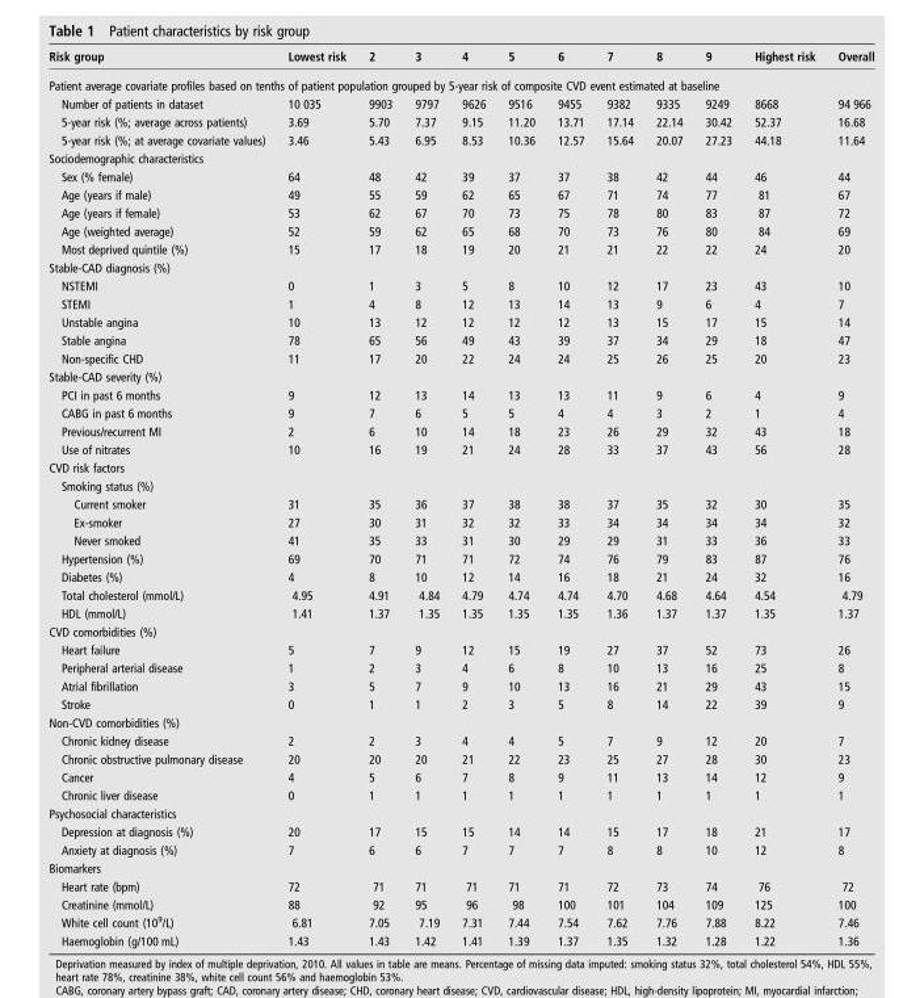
<table><thead><tr><td>Risk group</td><td>Lowest risk</td><td>2</td><td>3</td><td>4</td><td>5</td><td>6</td><td>7</td><td>8</td><td>9</td><td>Highest risk</td><td>Overall</td></tr></thead><tbody><tr><td colspan="12">Patient average covariate profiles based on tenths of patient population grouped by 5-year risk of composite CVD event estimated at baseline</td></tr><tr><td>Number of patients in dataset</td><td>10 035</td><td>9903</td><td>9797</td><td>9626</td><td>9516</td><td>9455</td><td>9382</td><td>9335</td><td>9249</td><td>8668</td><td>94 966</td></tr><tr><td>5-year risk (%; average across patients)</td><td>3.69</td><td>5.70</td><td>7.37</td><td>9.15</td><td>11.20</td><td>13.71</td><td>17.14</td><td>22.14</td><td>30.42</td><td>52.37</td><td>16.68</td></tr><tr><td>5-year risk (%; at average covariate values)</td><td>3.46</td><td>5.43</td><td>6.95</td><td>8.53</td><td>10.36</td><td>12.57</td><td>15.64</td><td>20.07</td><td>27.23</td><td>44.18</td><td>11.64</td></tr><tr><td colspan="12">Sociodemographic characteristics</td></tr><tr><td>Sex (% female)</td><td>64</td><td>48</td><td>42</td><td>39</td><td>37</td><td>37</td><td>38</td><td>42</td><td>44</td><td>46</td><td>44</td></tr><tr><td>Age (years if male)</td><td>49</td><td>55</td><td>59</td><td>62</td><td>65</td><td>67</td><td>71</td><td>74</td><td>77</td><td>81</td><td>67</td></tr><tr><td>Age (years if female)</td><td>53</td><td>62</td><td>67</td><td>70</td><td>73</td><td>75</td><td>78</td><td>80</td><td>83</td><td>87</td><td>72</td></tr><tr><td>Age (weighted average)</td><td>52</td><td>59</td><td>62</td><td>65</td><td>68</td><td>70</td><td>73</td><td>76</td><td>80</td><td>84</td><td>69</td></tr><tr><td>Most deprived quintile (%)</td><td>15</td><td>17</td><td>18</td><td>19</td><td>20</td><td>21</td><td>21</td><td>22</td><td>22</td><td>24</td><td>20</td></tr><tr><td colspan="12">Stable-CAD diagnosis (%)</td></tr><tr><td>NSTEMI</td><td>0</td><td>1</td><td>3</td><td>5</td><td>8</td><td>10</td><td>12</td><td>17</td><td>23</td><td>43</td><td>10</td></tr><tr><td>STEMI</td><td>1</td><td>4</td><td>8</td><td>12</td><td>13</td><td>14</td><td>13</td><td>9</td><td>6</td><td>4</td><td>7</td></tr><tr><td>Unstable angina</td><td>10</td><td>13</td><td>12</td><td>12</td><td>12</td><td>12</td><td>13</td><td>15</td><td>17</td><td>15</td><td>14</td></tr><tr><td>Stable angina</td><td>78</td><td>65</td><td>56</td><td>49</td><td>43</td><td>39</td><td>37</td><td>34</td><td>29</td><td>18</td><td>47</td></tr><tr><td>Non-specific CHD</td><td>11</td><td>17</td><td>20</td><td>22</td><td>24</td><td>24</td><td>25</td><td>26</td><td>25</td><td>20</td><td>23</td></tr><tr><td colspan="12">Stable-CAD severity (%)</td></tr><tr><td>PCI in past 6 months</td><td>9</td><td>12</td><td>13</td><td>14</td><td>13</td><td>13</td><td>11</td><td>9</td><td>6</td><td>4</td><td>9</td></tr><tr><td>CABG in past 6 months</td><td>9</td><td>7</td><td>6</td><td>5</td><td>5</td><td>4</td><td>4</td><td>3</td><td>2</td><td>1</td><td>4</td></tr><tr><td>Previous/recurrent MI</td><td>2</td><td>6</td><td>10</td><td>14</td><td>18</td><td>23</td><td>26</td><td>29</td><td>32</td><td>43</td><td>18</td></tr><tr><td>Use of nitrates</td><td>10</td><td>16</td><td>19</td><td>21</td><td>24</td><td>28</td><td>33</td><td>37</td><td>43</td><td>56</td><td>28</td></tr><tr><td colspan="12">CVD risk factors</td></tr><tr><td colspan="12">Smoking status (%)</td></tr><tr><td>Current smoker</td><td>31</td><td>35</td><td>36</td><td>37</td><td>38</td><td>38</td><td>37</td><td>35</td><td>32</td><td>30</td><td>35</td></tr><tr><td>Ex-smoker</td><td>27</td><td>30</td><td>31</td><td>32</td><td>32</td><td>33</td><td>34</td><td>34</td><td>34</td><td>34</td><td>32</td></tr><tr><td>Never smoked</td><td>41</td><td>35</td><td>33</td><td>31</td><td>30</td><td>29</td><td>29</td><td>31</td><td>33</td><td>36</td><td>33</td></tr><tr><td>Hypertension (%)</td><td>69</td><td>70</td><td>71</td><td>71</td><td>72</td><td>74</td><td>76</td><td>79</td><td>83</td><td>87</td><td>76</td></tr><tr><td>Diabetes (%)</td><td>4</td><td>8</td><td>10</td><td>12</td><td>14</td><td>16</td><td>18</td><td>21</td><td>24</td><td>32</td><td>16</td></tr><tr><td>Total cholesterol (mmol/L)</td><td>4.95</td><td>4.91</td><td>4.84</td><td>4.79</td><td>4.74</td><td>4.74</td><td>4.70</td><td>4.68</td><td>4.64</td><td>4.54</td><td>4.79</td></tr><tr><td>HDL (mmol/L)</td><td>1.41</td><td>1.37</td><td>1.35</td><td>1.35</td><td>1.35</td><td>1.35</td><td>1.36</td><td>1.37</td><td>1.37</td><td>1.35</td><td>1.37</td></tr><tr><td colspan="12">CVD comorbidities (%)</td></tr><tr><td>Heart failure</td><td>5</td><td>7</td><td>9</td><td>12</td><td>15</td><td>19</td><td>27</td><td>37</td><td>52</td><td>73</td><td>26</td></tr><tr><td>Peripheral arterial disease</td><td>1</td><td>2</td><td>3</td><td>4</td><td>6</td><td>8</td><td>10</td><td>13</td><td>16</td><td>25</td><td>8</td></tr><tr><td>Atrial fibrillation</td><td>3</td><td>5</td><td>7</td><td>9</td><td>10</td><td>13</td><td>16</td><td>21</td><td>29</td><td>43</td><td>15</td></tr><tr><td>Stroke</td><td>0</td><td>1</td><td>1</td><td>2</td><td>3</td><td>5</td><td>8</td><td>14</td><td>22</td><td>39</td><td>9</td></tr><tr><td colspan="12">Non-CVD comorbidities (%)</td></tr><tr><td>Chronic kidney disease</td><td>2</td><td>2</td><td>3</td><td>4</td><td>4</td><td>5</td><td>7</td><td>9</td><td>12</td><td>20</td><td>7</td></tr><tr><td>Chronic obstructive pulmonary disease</td><td>20</td><td>20</td><td>20</td><td>21</td><td>22</td><td>23</td><td>25</td><td>27</td><td>28</td><td>30</td><td>23</td></tr><tr><td>Cancer</td><td>4</td><td>5</td><td>6</td><td>7</td><td>8</td><td>9</td><td>11</td><td>13</td><td>14</td><td>12</td><td>9</td></tr><tr><td>Chronic liver disease</td><td>0</td><td>1</td><td>1</td><td>1</td><td>1</td><td>1</td><td>1</td><td>1</td><td>1</td><td>1</td><td>1</td></tr><tr><td colspan="12">Psychosocial characteristics</td></tr><tr><td>Depression at diagnosis (%)</td><td>20</td><td>17</td><td>15</td><td>15</td><td>14</td><td>14</td><td>15</td><td>17</td><td>18</td><td>21</td><td>17</td></tr><tr><td>Anxiety at diagnosis (%)</td><td>7</td><td>6</td><td>6</td><td>7</td><td>7</td><td>7</td><td>8</td><td>8</td><td>10</td><td>12</td><td>8</td></tr><tr><td colspan="12">Biomarkers</td></tr><tr><td>Heart rate (bpm)</td><td>72</td><td>71</td><td>71</td><td>71</td><td>71</td><td>71</td><td>72</td><td>73</td><td>74</td><td>76</td><td>72</td></tr><tr><td>Creatinine (mmol/L)</td><td>88</td><td>92</td><td>95</td><td>96</td><td>98</td><td>100</td><td>101</td><td>104</td><td>109</td><td>125</td><td>100</td></tr><tr><td>White cell count (10<sup>9</sup>/L)</td><td>6.81</td><td>7.05</td><td>7.19</td><td>7.31</td><td>7.44</td><td>7.54</td><td>7.62</td><td>7.76</td><td>7.88</td><td>8.22</td><td>7.46</td></tr><tr><td>Haemoglobin (g/100 mL)</td><td>1.43</td><td>1.43</td><td>1.42</td><td>1.41</td><td>1.39</td><td>1.37</td><td>1.35</td><td>1.32</td><td>1.28</td><td>1.22</td><td>1.36</td></tr></tbody></table>